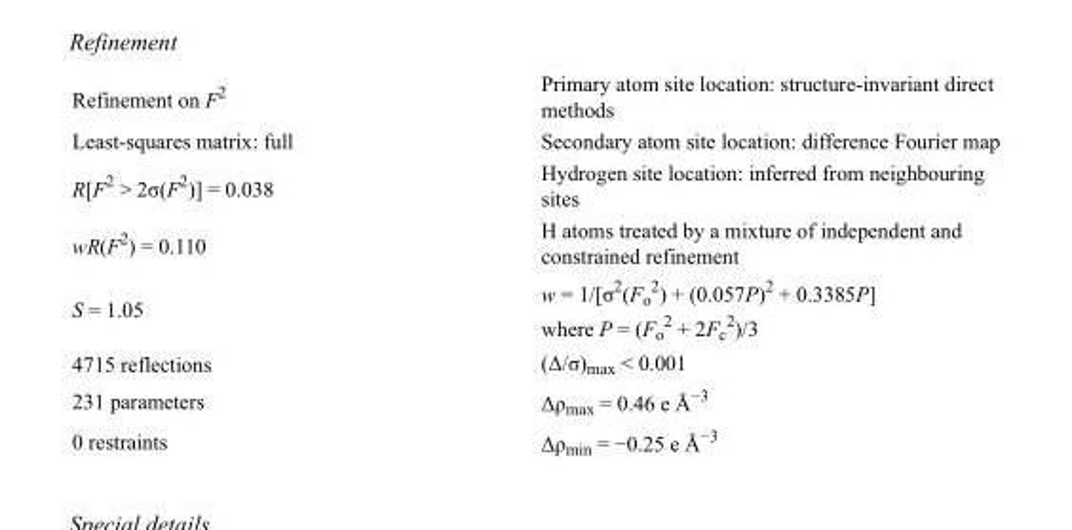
<table><tbody><tr><td>Refinement on F<sup>2</sup></td><td>Primary atom site location: structure-invariant direct methods</td></tr><tr><td>Least-squares matrix: full</td><td>Secondary atom site location: difference Fourier map</td></tr><tr><td>R[F<sup>2</sup> &gt; 2σ(F<sup>2</sup>)] = 0.038</td><td>Hydrogen site location: inferred from neighbouring sites</td></tr><tr><td>wR(F<sup>2</sup>) = 0.110</td><td>H atoms treated by a mixture of independent and constrained refinement</td></tr><tr><td>S = 1.05</td><td>w = 1/[σ<sup>2</sup>(F<sub>o</sub> <sup>2</sup>) + (0.057P)<sup>2</sup> + 0.3385P] where P = (F<sub>o</sub> <sup>2</sup> + 2F<sub>c</sub> <sup>2</sup>)/3</td></tr><tr><td>4715 reflections</td><td>(Δ/σ)<sub>max</sub> &lt; 0.001</td></tr><tr><td>231 parameters</td><td>Δρ<sub>max</sub> = 0.46 e Å<sup>−3</sup></td></tr><tr><td>0 restraints</td><td>Δρ<sub>min</sub> = −0.25 e Å<sup>−3</sup></td></tr></tbody></table>